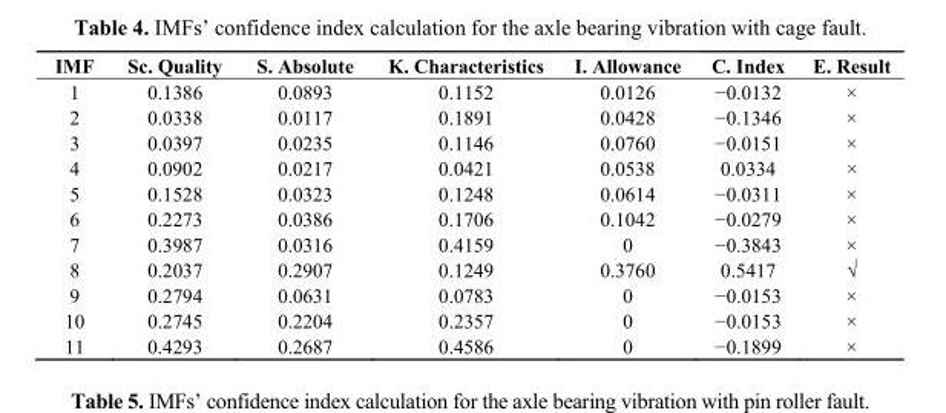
<table><thead><tr><td>IMF</td><td>Sc. Quality</td><td>S. Absolute</td><td>K. Characteristics</td><td>I. Allowance</td><td>C. Index</td><td>E. Result</td></tr></thead><tbody><tr><td>1</td><td>0.1386</td><td>0.0893</td><td>0.1152</td><td>0.0126</td><td>−0.0132</td><td>×</td></tr><tr><td>2</td><td>0.0338</td><td>0.0117</td><td>0.1891</td><td>0.0428</td><td>−0.1346</td><td>×</td></tr><tr><td>3</td><td>0.0397</td><td>0.0235</td><td>0.1146</td><td>0.0760</td><td>−0.0151</td><td>×</td></tr><tr><td>4</td><td>0.0902</td><td>0.0217</td><td>0.0421</td><td>0.0538</td><td>0.0334</td><td>×</td></tr><tr><td>5</td><td>0.1528</td><td>0.0323</td><td>0.1248</td><td>0.0614</td><td>−0.0311</td><td>×</td></tr><tr><td>6</td><td>0.2273</td><td>0.0386</td><td>0.1706</td><td>0.1042</td><td>−0.0279</td><td>×</td></tr><tr><td>7</td><td>0.3987</td><td>0.0316</td><td>0.4159</td><td>0</td><td>−0.3843</td><td>×</td></tr><tr><td>8</td><td>0.2037</td><td>0.2907</td><td>0.1249</td><td>0.3760</td><td>0.5417</td><td>√</td></tr><tr><td>9</td><td>0.2794</td><td>0.0631</td><td>0.0783</td><td>0</td><td>−0.0153</td><td>×</td></tr><tr><td>10</td><td>0.2745</td><td>0.2204</td><td>0.2357</td><td>0</td><td>−0.0153</td><td>×</td></tr><tr><td>11</td><td>0.4293</td><td>0.2687</td><td>0.4586</td><td>0</td><td>−0.1899</td><td>×</td></tr></tbody></table>